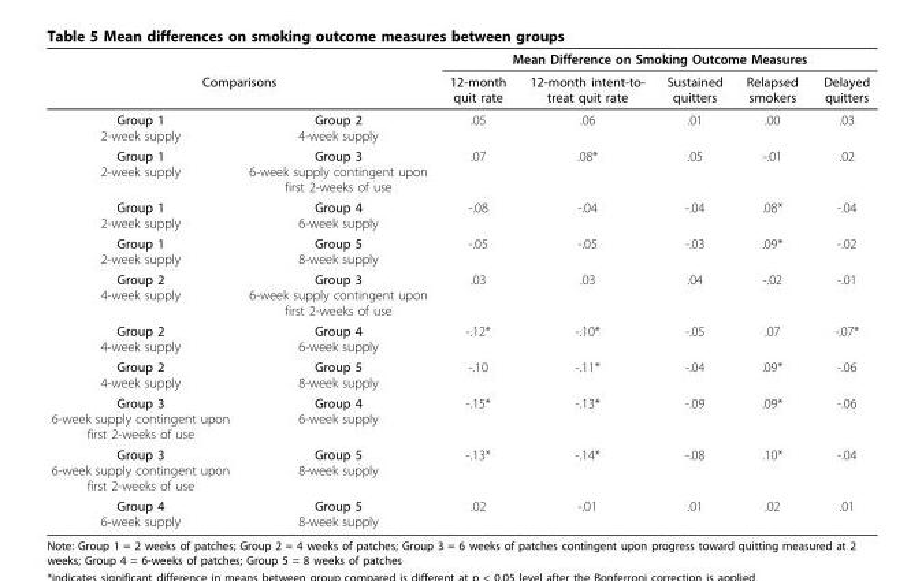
<table><thead><tr><td></td><td></td><td colspan="5">Mean Difference on Smoking Outcome Measures</td></tr><tr><td colspan="2">Comparisons</td><td>12-month quit rate</td><td>12-month intent-to- treat quit rate</td><td>Sustained quitters</td><td>Relapsed smokers</td><td>Delayed quitters</td></tr></thead><tbody><tr><td>Group 1 2-week supply</td><td>Group 2 4-week supply</td><td>.05</td><td>.06</td><td>.01</td><td>.00</td><td>.03</td></tr><tr><td>Group 1 2-week supply</td><td>Group 3 6-week supply contingent upon first 2-weeks of use</td><td>.07</td><td>.08*</td><td>.05</td><td>-.01</td><td>.02</td></tr><tr><td>Group 1 2-week supply</td><td>Group 4 6-week supply</td><td>-.08</td><td>-.04</td><td>-.04</td><td>.08*</td><td>-.04</td></tr><tr><td>Group 1 2-week supply</td><td>Group 5 8-week supply</td><td>-.05</td><td>-.05</td><td>-.03</td><td>.09*</td><td>-.02</td></tr><tr><td>Group 2 4-week supply</td><td>Group 3 6-week supply contingent upon first 2-weeks of use</td><td>.03</td><td>.03</td><td>.04</td><td>-.02</td><td>-.01</td></tr><tr><td>Group 2 4-week supply</td><td>Group 4 6-week supply</td><td>-.12*</td><td>-.10*</td><td>-.05</td><td>.07</td><td>-.07*</td></tr><tr><td>Group 2 4-week supply</td><td>Group 5 8-week supply</td><td>-.10</td><td>-.11*</td><td>-.04</td><td>.09*</td><td>-.06</td></tr><tr><td>Group 3 6-week supply contingent upon first 2-weeks of use</td><td>Group 4 6-week supply</td><td>-.15*</td><td>-.13*</td><td>-.09</td><td>.09*</td><td>-.06</td></tr><tr><td>Group 3 6-week supply contingent upon first 2-weeks of use</td><td>Group 5 8-week supply</td><td>-.13*</td><td>-.14*</td><td>-.08</td><td>.10*</td><td>-.04</td></tr><tr><td>Group 4 6-week supply</td><td>Group 5 8-week supply</td><td>.02</td><td>-.01</td><td>.01</td><td>.02</td><td>.01</td></tr></tbody></table>